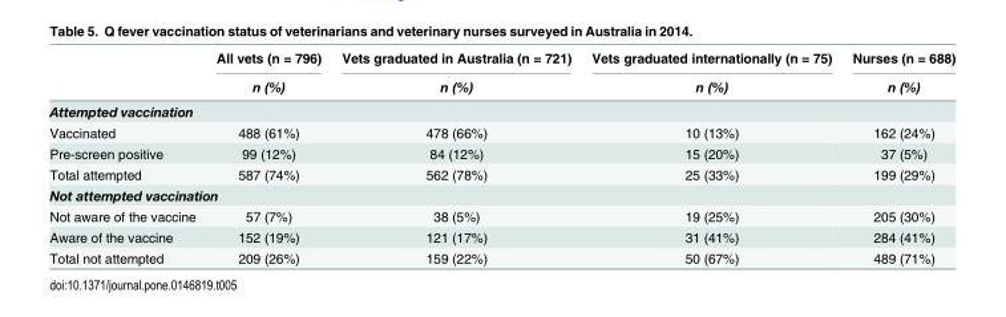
<table><thead><tr><td rowspan="2"></td><td rowspan="2">All vets (n = 796) n (%)</td><td rowspan="2">Vets graduated in Australia (n = 721) n (%)</td><td rowspan="2">Vets graduated internationally (n = 75) n (%)</td><td rowspan="2">Nurses (n = 688) n (%)</td></tr><tr></tr></thead><tbody><tr><td colspan="5">Attempted vaccination</td></tr><tr><td>Vaccinated</td><td>488 (61%)</td><td>478 (66%)</td><td>10 (13%)</td><td>162 (24%)</td></tr><tr><td>Pre-screen positive</td><td>99 (12%)</td><td>84 (12%)</td><td>15 (20%)</td><td>37 (5%)</td></tr><tr><td>Total attempted</td><td>587 (74%)</td><td>562 (78%)</td><td>25 (33%)</td><td>199 (29%)</td></tr><tr><td colspan="5">Not attempted vaccination</td></tr><tr><td>Not aware of the vaccine</td><td>57 (7%)</td><td>38 (5%)</td><td>19 (25%)</td><td>205 (30%)</td></tr><tr><td>Aware of the vaccine</td><td>152 (19%)</td><td>121 (17%)</td><td>31 (41%)</td><td>284 (41%)</td></tr><tr><td>Total not attempted</td><td>209 (26%)</td><td>159 (22%)</td><td>50 (67%)</td><td>489 (71%)</td></tr></tbody></table>